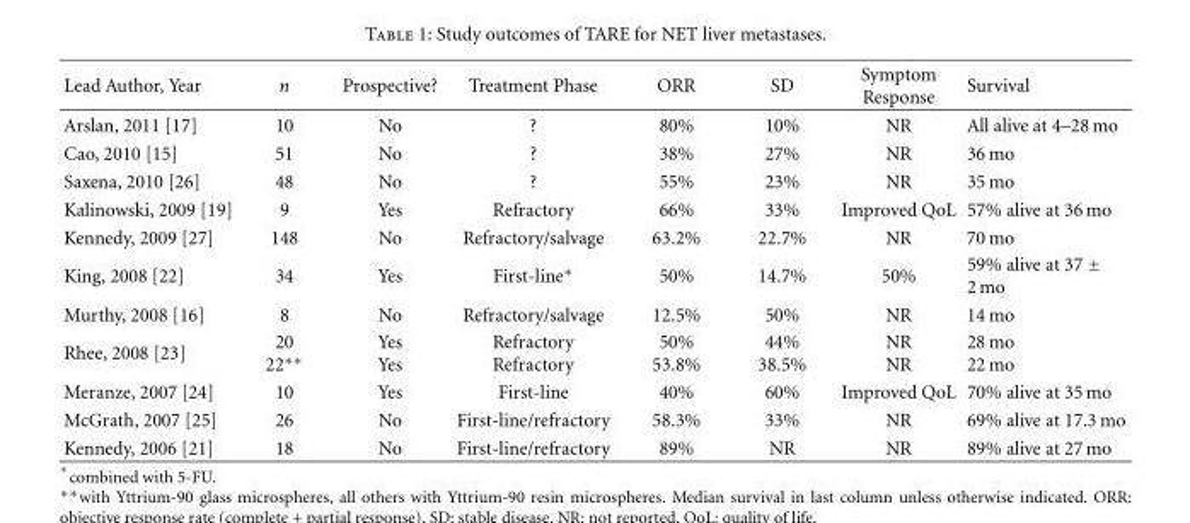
<table><thead><tr><td>Lead Author, Year</td><td>n</td><td>Prospective?</td><td>Treatment Phase</td><td>ORR</td><td>SD</td><td>Symptom Response</td><td>Survival</td></tr></thead><tbody><tr><td>Arslan, 2011 [17]</td><td>10</td><td>No</td><td>?</td><td>80%</td><td>10%</td><td>NR</td><td>All alive at 4–28 mo</td></tr><tr><td>Cao, 2010 [15]</td><td>51</td><td>No</td><td>?</td><td>38%</td><td>27%</td><td>NR</td><td>36 mo</td></tr><tr><td>Saxena, 2010 [26]</td><td>48</td><td>No</td><td>?</td><td>55%</td><td>23%</td><td>NR</td><td>35 mo</td></tr><tr><td>Kalinowski, 2009 [19]</td><td>9</td><td>Yes</td><td>Refractory</td><td>66%</td><td>33%</td><td>Improved QoL</td><td>57% alive at 36 mo</td></tr><tr><td>Kennedy, 2009 [27]</td><td>148</td><td>No</td><td>Refractory/salvage</td><td>63.2%</td><td>22.7%</td><td>NR</td><td>70 mo</td></tr><tr><td>King, 2008 [22]</td><td>34</td><td>Yes</td><td>First-line∗</td><td>50%</td><td>14.7%</td><td>50%</td><td>59% alive at 37 ± 2 mo</td></tr><tr><td>Murthy, 2008 [16]</td><td>8</td><td>No</td><td>Refractory/salvage</td><td>12.5%</td><td>50%</td><td>NR</td><td>14 mo</td></tr><tr><td>Rhee, 2008 [23]</td><td>20 22∗∗</td><td>Yes Yes</td><td>Refractory Refractory</td><td>50% 53.8%</td><td>44% 38.5%</td><td>NR NR</td><td>28 mo 22 mo</td></tr><tr><td>Meranze, 2007 [24]</td><td>10</td><td>Yes</td><td>First-line</td><td>40%</td><td>60%</td><td>Improved QoL</td><td>70% alive at 35 mo</td></tr><tr><td>McGrath, 2007 [25]</td><td>26</td><td>No</td><td>First-line/refractory</td><td>58.3%</td><td>33%</td><td>NR</td><td>69% alive at 17.3 mo</td></tr><tr><td>Kennedy, 2006 [21]</td><td>18</td><td>No</td><td>First-line/refractory</td><td>89%</td><td>NR</td><td>NR</td><td>89% alive at 27 mo</td></tr></tbody></table>